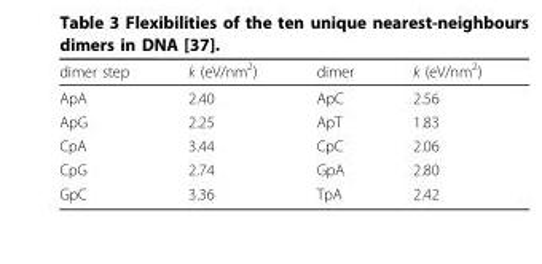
<table><thead><tr><td>dimer step</td><td>k (eV/nm<sup>2</sup>)</td><td>dimer</td><td>k (eV/nm<sup>2</sup>)</td></tr></thead><tbody><tr><td>ApA</td><td>2.40</td><td>ApC</td><td>2.56</td></tr><tr><td>ApG</td><td>2.25</td><td>ApT</td><td>1.83</td></tr><tr><td>CpA</td><td>3.44</td><td>CpC</td><td>2.06</td></tr><tr><td>CpG</td><td>2.74</td><td>GpA</td><td>2.80</td></tr><tr><td>GpC</td><td>3.36</td><td>TpA</td><td>2.42</td></tr></tbody></table>